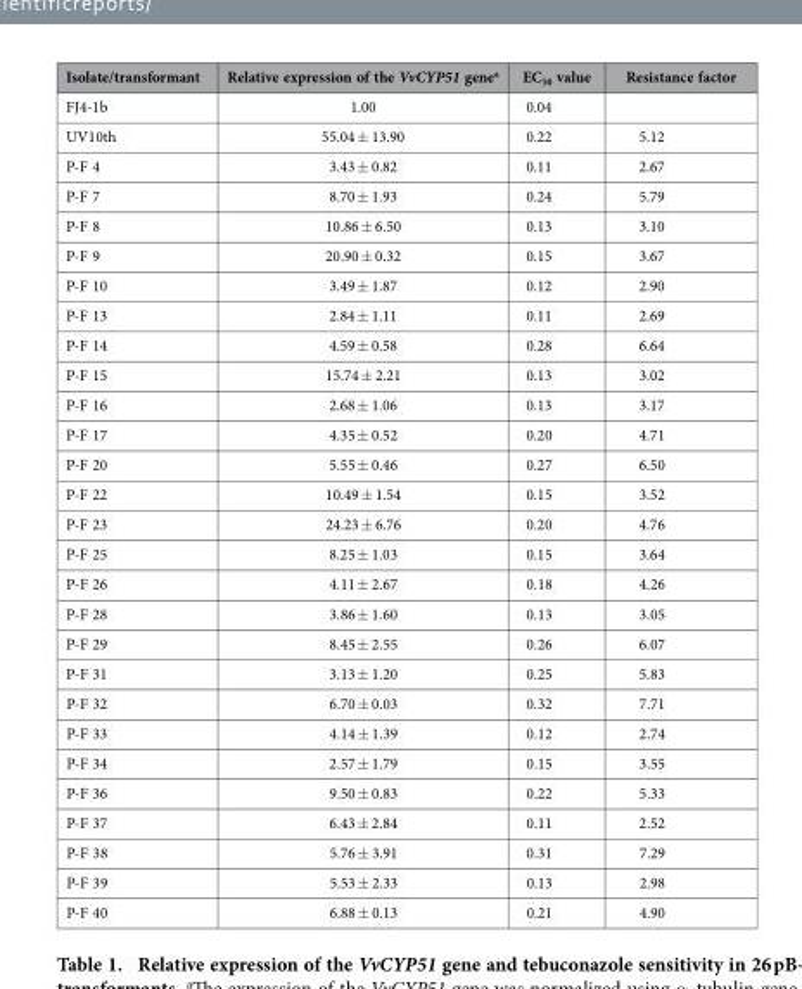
<table><thead><tr><td>Isolate/transformant</td><td>Relative expression of the VvCYP51 gene<sup>a</sup></td><td>EC<sub>50</sub> value</td><td>Resistance factor</td></tr></thead><tbody><tr><td>FJ4-1b</td><td>1.00</td><td>0.04</td><td></td></tr><tr><td>UV10th</td><td>55.04 ± 13.90</td><td>0.22</td><td>5.12</td></tr><tr><td>P-F 4</td><td>3.43 ± 0.82</td><td>0.11</td><td>2.67</td></tr><tr><td>P-F 7</td><td>8.70 ± 1.93</td><td>0.24</td><td>5.79</td></tr><tr><td>P-F 8</td><td>10.86 ± 6.50</td><td>0.13</td><td>3.10</td></tr><tr><td>P-F 9</td><td>20.90 ± 0.32</td><td>0.15</td><td>3.67</td></tr><tr><td>P-F 10</td><td>3.49 ± 1.87</td><td>0.12</td><td>2.90</td></tr><tr><td>P-F 13</td><td>2.84 ± 1.11</td><td>0.11</td><td>2.69</td></tr><tr><td>P-F 14</td><td>4.59 ± 0.58</td><td>0.28</td><td>6.64</td></tr><tr><td>P-F 15</td><td>15.74 ± 2.21</td><td>0.13</td><td>3.02</td></tr><tr><td>P-F 16</td><td>2.68 ± 1.06</td><td>0.13</td><td>3.17</td></tr><tr><td>P-F 17</td><td>4.35 ± 0.52</td><td>0.20</td><td>4.71</td></tr><tr><td>P-F 20</td><td>5.55 ± 0.46</td><td>0.27</td><td>6.50</td></tr><tr><td>P-F 22</td><td>10.49 ± 1.54</td><td>0.15</td><td>3.52</td></tr><tr><td>P-F 23</td><td>24.23 ± 6.76</td><td>0.20</td><td>4.76</td></tr><tr><td>P-F 25</td><td>8.25 ± 1.03</td><td>0.15</td><td>3.64</td></tr><tr><td>P-F 26</td><td>4.11 ± 2.67</td><td>0.18</td><td>4.26</td></tr><tr><td>P-F 28</td><td>3.86 ± 1.60</td><td>0.13</td><td>3.05</td></tr><tr><td>P-F 29</td><td>8.45 ± 2.55</td><td>0.26</td><td>6.07</td></tr><tr><td>P-F 31</td><td>3.13 ± 1.20</td><td>0.25</td><td>5.83</td></tr><tr><td>P-F 32</td><td>6.70 ± 0.03</td><td>0.32</td><td>7.71</td></tr><tr><td>P-F 33</td><td>4.14 ± 1.39</td><td>0.12</td><td>2.74</td></tr><tr><td>P-F 34</td><td>2.57 ± 1.79</td><td>0.15</td><td>3.55</td></tr><tr><td>P-F 36</td><td>9.50 ± 0.83</td><td>0.22</td><td>5.33</td></tr><tr><td>P-F 37</td><td>6.43 ± 2.84</td><td>0.11</td><td>2.52</td></tr><tr><td>P-F 38</td><td>5.76 ± 3.91</td><td>0.31</td><td>7.29</td></tr><tr><td>P-F 39</td><td>5.53 ± 2.33</td><td>0.13</td><td>2.98</td></tr><tr><td>P-F 40</td><td>6.88 ± 0.13</td><td>0.21</td><td>4.90</td></tr></tbody></table>